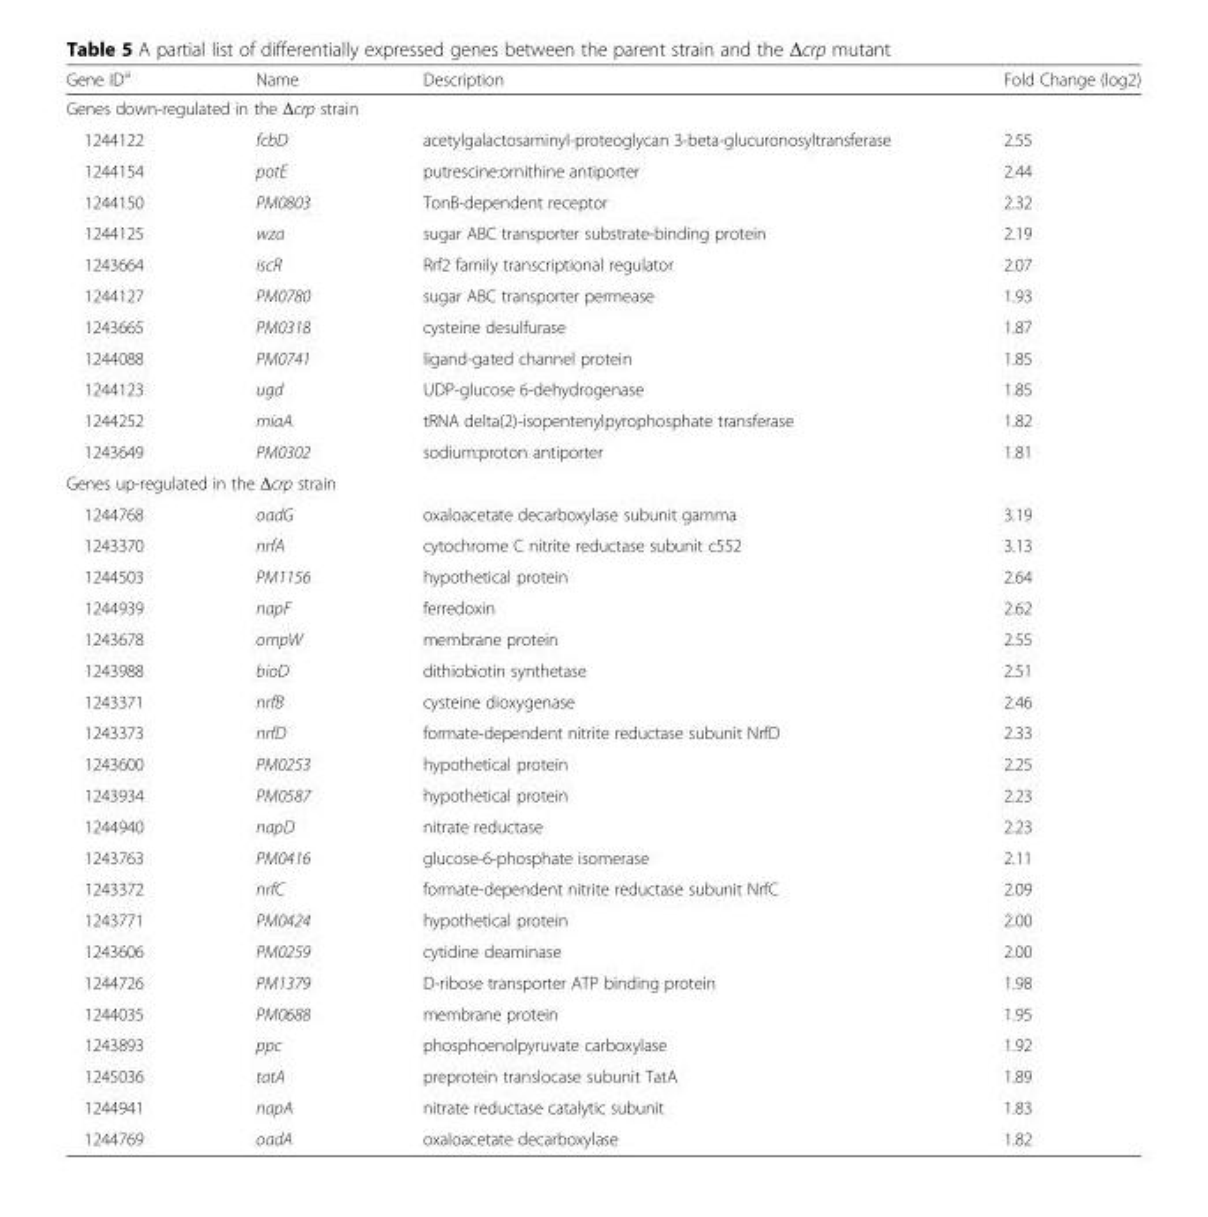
<table><thead><tr><td>Gene ID<sup>a</sup></td><td>Name</td><td>Description</td><td>Fold Change (log2)</td></tr></thead><tbody><tr><td colspan="4">Genes down-regulated in the Δcrp strain</td></tr><tr><td>1244122</td><td>fcbD</td><td>acetylgalactosaminyl-proteoglycan 3-beta-glucuronosyltransferase</td><td>2.55</td></tr><tr><td>1244154</td><td>potE</td><td>putrescine:ornithine antiporter</td><td>2.44</td></tr><tr><td>1244150</td><td>PM0803</td><td>TonB-dependent receptor</td><td>2.32</td></tr><tr><td>1244125</td><td>wza</td><td>sugar ABC transporter substrate-binding protein</td><td>2.19</td></tr><tr><td>1243664</td><td>iscR</td><td>Rrf2 family transcriptional regulator</td><td>2.07</td></tr><tr><td>1244127</td><td>PM0780</td><td>sugar ABC transporter permease</td><td>1.93</td></tr><tr><td>1243665</td><td>PM0318</td><td>cysteine desulfurase</td><td>1.87</td></tr><tr><td>1244088</td><td>PM0741</td><td>ligand-gated channel protein</td><td>1.85</td></tr><tr><td>1244123</td><td>ugd</td><td>UDP-glucose 6-dehydrogenase</td><td>1.85</td></tr><tr><td>1244252</td><td>miaA</td><td>tRNA delta(2)-isopentenylpyrophosphate transferase</td><td>1.82</td></tr><tr><td>1243649</td><td>PM0302</td><td>sodium:proton antiporter</td><td>1.81</td></tr><tr><td colspan="4">Genes up-regulated in the Δcrp strain</td></tr><tr><td>1244768</td><td>oadG</td><td>oxaloacetate decarboxylase subunit gamma</td><td>3.19</td></tr><tr><td>1243370</td><td>nrfA</td><td>cytochrome C nitrite reductase subunit c552</td><td>3.13</td></tr><tr><td>1244503</td><td>PM1156</td><td>hypothetical protein</td><td>2.64</td></tr><tr><td>1244939</td><td>napF</td><td>ferredoxin</td><td>2.62</td></tr><tr><td>1243678</td><td>ompW</td><td>membrane protein</td><td>2.55</td></tr><tr><td>1243988</td><td>bioD</td><td>dithiobiotin synthetase</td><td>2.51</td></tr><tr><td>1243371</td><td>nrfB</td><td>cysteine dioxygenase</td><td>2.46</td></tr><tr><td>1243373</td><td>nrfD</td><td>formate-dependent nitrite reductase subunit NrfD</td><td>2.33</td></tr><tr><td>1243600</td><td>PM0253</td><td>hypothetical protein</td><td>2.25</td></tr><tr><td>1243934</td><td>PM0587</td><td>hypothetical protein</td><td>2.23</td></tr><tr><td>1244940</td><td>napD</td><td>nitrate reductase</td><td>2.23</td></tr><tr><td>1243763</td><td>PM0416</td><td>glucose-6-phosphate isomerase</td><td>2.11</td></tr><tr><td>1243372</td><td>nrfC</td><td>formate-dependent nitrite reductase subunit NrfC</td><td>2.09</td></tr><tr><td>1243771</td><td>PM0424</td><td>hypothetical protein</td><td>2.00</td></tr><tr><td>1243606</td><td>PM0259</td><td>cytidine deaminase</td><td>2.00</td></tr><tr><td>1244726</td><td>PM1379</td><td>D-ribose transporter ATP binding protein</td><td>1.98</td></tr><tr><td>1244035</td><td>PM0688</td><td>membrane protein</td><td>1.95</td></tr><tr><td>1243893</td><td>ppc</td><td>phosphoenolpyruvate carboxylase</td><td>1.92</td></tr><tr><td>1245036</td><td>tatA</td><td>preprotein translocase subunit TatA</td><td>1.89</td></tr><tr><td>1244941</td><td>napA</td><td>nitrate reductase catalytic subunit</td><td>1.83</td></tr><tr><td>1244769</td><td>oadA</td><td>oxaloacetate decarboxylase</td><td>1.82</td></tr></tbody></table>